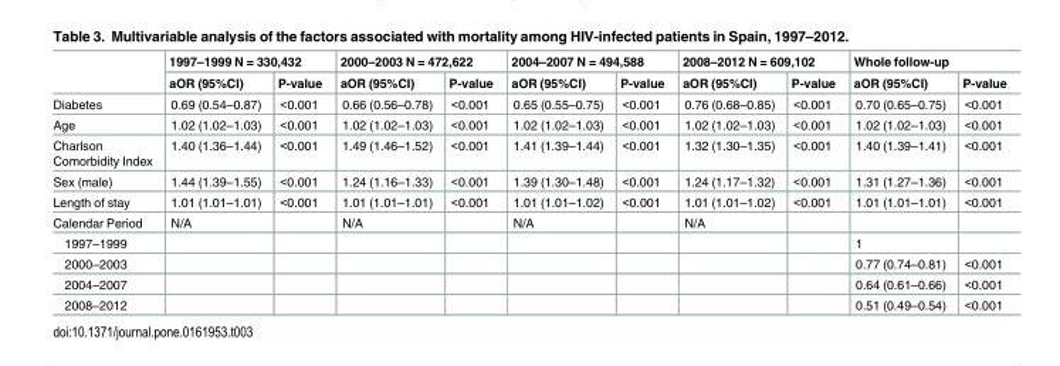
<table><thead><tr><td rowspan="2"></td><td colspan="2">1997–1999 N = 330,432</td><td colspan="2">2000–2003 N = 472,622</td><td colspan="2">2004–2007 N = 494,588</td><td colspan="2">2008–2012 N = 609,102</td><td colspan="2">Whole follow-up</td></tr><tr><td>aOR (95%CI)</td><td>P-value</td><td>aOR (95%CI)</td><td>P-value</td><td>aOR (95%CI)</td><td>P-value</td><td>aOR (95%CI)</td><td>P-value</td><td>aOR (95%CI)</td><td>P-value</td></tr></thead><tbody><tr><td>Diabetes</td><td>0.69 (0.54–0.87)</td><td>&lt;0.001</td><td>0.66 (0.56–0.78)</td><td>&lt;0.001</td><td>0.65 (0.55–0.75)</td><td>&lt;0.001</td><td>0.76 (0.68–0.85)</td><td>&lt;0.001</td><td>0.70 (0.65–0.75)</td><td>&lt;0.001</td></tr><tr><td>Age</td><td>1.02 (1.02–1.03)</td><td>&lt;0.001</td><td>1.02 (1.02–1.03)</td><td>&lt;0.001</td><td>1.02 (1.02–1.03)</td><td>&lt;0.001</td><td>1.02 (1.02–1.03)</td><td>&lt;0.001</td><td>1.02 (1.02–1.03)</td><td>&lt;0.001</td></tr><tr><td>Charlson Comorbidity Index</td><td>1.40 (1.36–1.44)</td><td>&lt;0.001</td><td>1.49 (1.46–1.52)</td><td>&lt;0.001</td><td>1.41 (1.39–1.44)</td><td>&lt;0.001</td><td>1.32 (1.30–1.35)</td><td>&lt;0.001</td><td>1.40 (1.39–1.41)</td><td>&lt;0.001</td></tr><tr><td>Sex (male)</td><td>1.44 (1.39–1.55)</td><td>&lt;0.001</td><td>1.24 (1.16–1.33)</td><td>&lt;0.001</td><td>1.39 (1.30–1.48)</td><td>&lt;0.001</td><td>1.24 (1.17–1.32)</td><td>&lt;0.001</td><td>1.31 (1.27–1.36)</td><td>&lt;0.001</td></tr><tr><td>Length of stay</td><td>1.01 (1.01–1.01)</td><td>&lt;0.001</td><td>1.01 (1.01–1.01)</td><td>&lt;0.001</td><td>1.01 (1.01–1.02)</td><td>&lt;0.001</td><td>1.01 (1.01–1.02)</td><td>&lt;0.001</td><td>1.01 (1.01–1.01)</td><td>&lt;0.001</td></tr><tr><td>Calendar Period</td><td>N/A</td><td></td><td>N/A</td><td></td><td>N/A</td><td></td><td>N/A</td><td></td><td></td><td></td></tr><tr><td>1997–1999</td><td></td><td></td><td></td><td></td><td></td><td></td><td></td><td></td><td>1</td><td></td></tr><tr><td>2000–2003</td><td></td><td></td><td></td><td></td><td></td><td></td><td></td><td></td><td>0.77 (0.74–0.81)</td><td>&lt;0.001</td></tr><tr><td>2004–2007</td><td></td><td></td><td></td><td></td><td></td><td></td><td></td><td></td><td>0.64 (0.61–0.66)</td><td>&lt;0.001</td></tr><tr><td>2008–2012</td><td></td><td></td><td></td><td></td><td></td><td></td><td></td><td></td><td>0.51 (0.49–0.54)</td><td>&lt;0.001</td></tr></tbody></table>